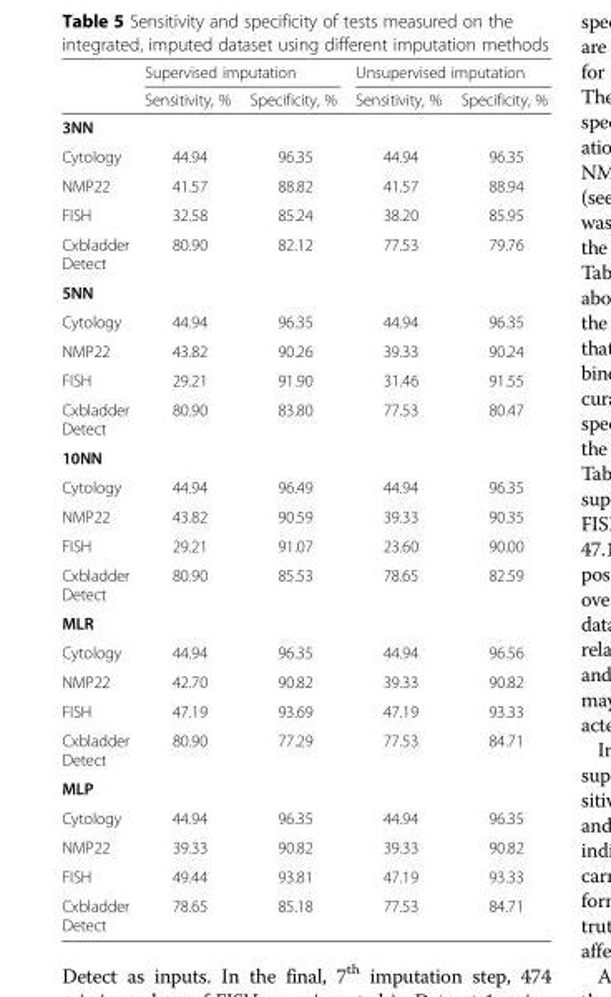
<table><thead><tr><td rowspan="2"></td><td colspan="2">Supervised imputation</td><td colspan="2">Unsupervised imputation</td></tr><tr><td>Sensitivity, %</td><td>Specificity, %</td><td>Sensitivity, %</td><td>Specificity, %</td></tr></thead><tbody><tr><td colspan="5">3NN</td></tr><tr><td>Cytology</td><td>44.94</td><td>96.35</td><td>44.94</td><td>96.35</td></tr><tr><td>NMP22</td><td>41.57</td><td>88.82</td><td>41.57</td><td>88.94</td></tr><tr><td>FISH</td><td>32.58</td><td>85.24</td><td>38.20</td><td>85.95</td></tr><tr><td>Cxbladder Detect</td><td>80.90</td><td>82.12</td><td>77.53</td><td>79.76</td></tr><tr><td colspan="5">5NN</td></tr><tr><td>Cytology</td><td>44.94</td><td>96.35</td><td>44.94</td><td>96.35</td></tr><tr><td>NMP22</td><td>43.82</td><td>90.26</td><td>39.33</td><td>90.24</td></tr><tr><td>FISH</td><td>29.21</td><td>91.90</td><td>31.46</td><td>91.55</td></tr><tr><td>Cxbladder Detect</td><td>80.90</td><td>83.80</td><td>77.53</td><td>80.47</td></tr><tr><td colspan="5">10NN</td></tr><tr><td>Cytology</td><td>44.94</td><td>96.49</td><td>44.94</td><td>96.35</td></tr><tr><td>NMP22</td><td>43.82</td><td>90.59</td><td>39.33</td><td>90.35</td></tr><tr><td>FISH</td><td>29.21</td><td>91.07</td><td>23.60</td><td>90.00</td></tr><tr><td>Cxbladder Detect</td><td>80.90</td><td>85.53</td><td>78.65</td><td>82.59</td></tr><tr><td colspan="5">MLR</td></tr><tr><td>Cytology</td><td>44.94</td><td>96.35</td><td>44.94</td><td>96.56</td></tr><tr><td>NMP22</td><td>42.70</td><td>90.82</td><td>39.33</td><td>90.82</td></tr><tr><td>FISH</td><td>47.19</td><td>93.69</td><td>47.19</td><td>93.33</td></tr><tr><td>Cxbladder Detect</td><td>80.90</td><td>77.29</td><td>77.53</td><td>84.71</td></tr><tr><td colspan="5">MLP</td></tr><tr><td>Cytology</td><td>44.94</td><td>96.35</td><td>44.94</td><td>96.35</td></tr><tr><td>NMP22</td><td>39.33</td><td>90.82</td><td>39.33</td><td>90.82</td></tr><tr><td>FISH</td><td>49.44</td><td>93.81</td><td>47.19</td><td>93.33</td></tr><tr><td>Cxbladder Detect</td><td>78.65</td><td>85.18</td><td>77.53</td><td>84.71</td></tr></tbody></table>